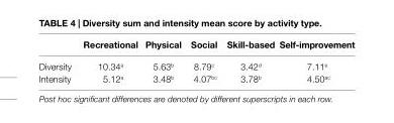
<table><thead><tr><td></td><td>recreational</td><td>Physical</td><td>social</td><td>skill-based</td><td>self-improvement</td></tr></thead><tbody><tr><td>Diversity</td><td>10.34<sup>a</sup></td><td>5.63<sup>b</sup></td><td>8.79<sup>c</sup></td><td>3.42<sup>d</sup></td><td>7.11<sup>e</sup></td></tr><tr><td>Intensity</td><td>5.12<sup>a</sup></td><td>3.48<sup>b</sup></td><td>4.07<sup>bc</sup></td><td>3.78<sup>b</sup></td><td>4.50<sup>ac</sup></td></tr></tbody></table>